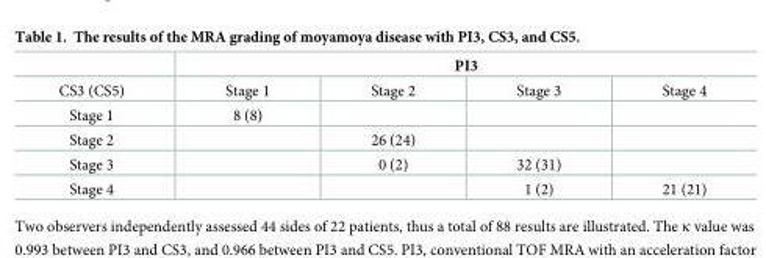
<table><thead><tr><td rowspan="2">CS3 (CS5)</td><td colspan="4">PI3</td></tr><tr><td>Stage 1</td><td>Stage 2</td><td>Stage 3</td><td>Stage 4</td></tr></thead><tbody><tr><td>Stage 1</td><td>8 (8)</td><td></td><td></td><td></td></tr><tr><td>Stage 2</td><td></td><td>26 (24)</td><td></td><td></td></tr><tr><td>Stage 3</td><td></td><td>0 (2)</td><td>32 (31)</td><td></td></tr><tr><td>Stage 4</td><td></td><td></td><td>1 (2)</td><td>21 (21)</td></tr></tbody></table>